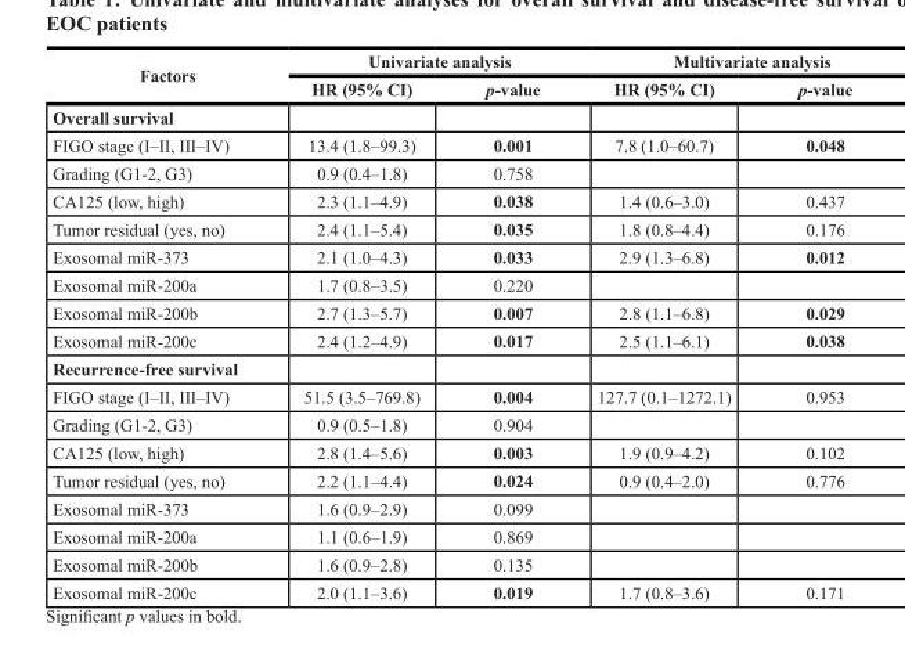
<table><thead><tr><td rowspan="2">Factors</td><td colspan="2">Univariate analysis</td><td colspan="2">Multivariate analysis</td></tr><tr><td>HR (95% CI)</td><td>p-value</td><td>HR (95% CI)</td><td>p-value</td></tr></thead><tbody><tr><td colspan="5">Overall survival</td></tr><tr><td>FIGO stage (I–II, III–IV)</td><td>13.4 (1.8–99.3)</td><td>0.001</td><td>7.8 (1.0–60.7)</td><td>0.048</td></tr><tr><td>Grading (G1-2, G3)</td><td>0.9 (0.4–1.8)</td><td>0.758</td><td></td><td></td></tr><tr><td>CA125 (low, high)</td><td>2.3 (1.1–4.9)</td><td>0.038</td><td>1.4 (0.6–3.0)</td><td>0.437</td></tr><tr><td>Tumor residual (yes, no)</td><td>2.4 (1.1–5.4)</td><td>0.035</td><td>1.8 (0.8–4.4)</td><td>0.176</td></tr><tr><td>Exosomal miR-373</td><td>2.1 (1.0–4.3)</td><td>0.033</td><td>2.9 (1.3–6.8)</td><td>0.012</td></tr><tr><td>Exosomal miR-200a</td><td>1.7 (0.8–3.5)</td><td>0.220</td><td></td><td></td></tr><tr><td>Exosomal miR-200b</td><td>2.7 (1.3–5.7)</td><td>0.007</td><td>2.8 (1.1–6.8)</td><td>0.029</td></tr><tr><td>Exosomal miR-200c</td><td>2.4 (1.2–4.9)</td><td>0.017</td><td>2.5 (1.1–6.1)</td><td>0.038</td></tr><tr><td colspan="5">Recurrence-free survival</td></tr><tr><td>FIGO stage (I–II, III–IV)</td><td>51.5 (3.5–769.8)</td><td>0.004</td><td>127.7 (0.1–1272.1)</td><td>0.953</td></tr><tr><td>Grading (G1-2, G3)</td><td>0.9 (0.5–1.8)</td><td>0.904</td><td></td><td></td></tr><tr><td>CA125 (low, high)</td><td>2.8 (1.4–5.6)</td><td>0.003</td><td>1.9 (0.9–4.2)</td><td>0.102</td></tr><tr><td>Tumor residual (yes, no)</td><td>2.2 (1.1–4.4)</td><td>0.024</td><td>0.9 (0.4–2.0)</td><td>0.776</td></tr><tr><td>Exosomal miR-373</td><td>1.6 (0.9–2.9)</td><td>0.099</td><td></td><td></td></tr><tr><td>Exosomal miR-200a</td><td>1.1 (0.6–1.9)</td><td>0.869</td><td></td><td></td></tr><tr><td>Exosomal miR-200b</td><td>1.6 (0.9–2.8)</td><td>0.135</td><td></td><td></td></tr><tr><td>Exosomal miR-200c</td><td>2.0 (1.1–3.6)</td><td>0.019</td><td>1.7 (0.8–3.6)</td><td>0.171</td></tr></tbody></table>